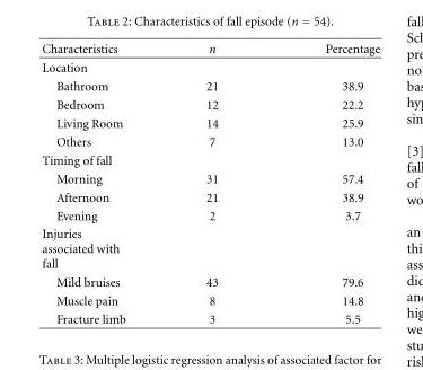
<table><thead><tr><td>Characteristics</td><td>n</td><td>Percentage</td></tr></thead><tbody><tr><td colspan="3">Location</td></tr><tr><td>Bathroom</td><td>21</td><td>38.9</td></tr><tr><td>Bedroom</td><td>12</td><td>22.2</td></tr><tr><td>Living Room</td><td>14</td><td>25.9</td></tr><tr><td>Others</td><td>7</td><td>13.0</td></tr><tr><td colspan="3">Timing of fall</td></tr><tr><td>Morning</td><td>31</td><td>57.4</td></tr><tr><td>Afternoon</td><td>21</td><td>38.9</td></tr><tr><td>Evening</td><td>2</td><td>3.7</td></tr><tr><td colspan="3">Injuries associated with fall</td></tr><tr><td>Mild bruises</td><td>43</td><td>79.6</td></tr><tr><td>Muscle pain</td><td>8</td><td>14.8</td></tr><tr><td>Fracture limb</td><td>3</td><td>5.5</td></tr></tbody></table>